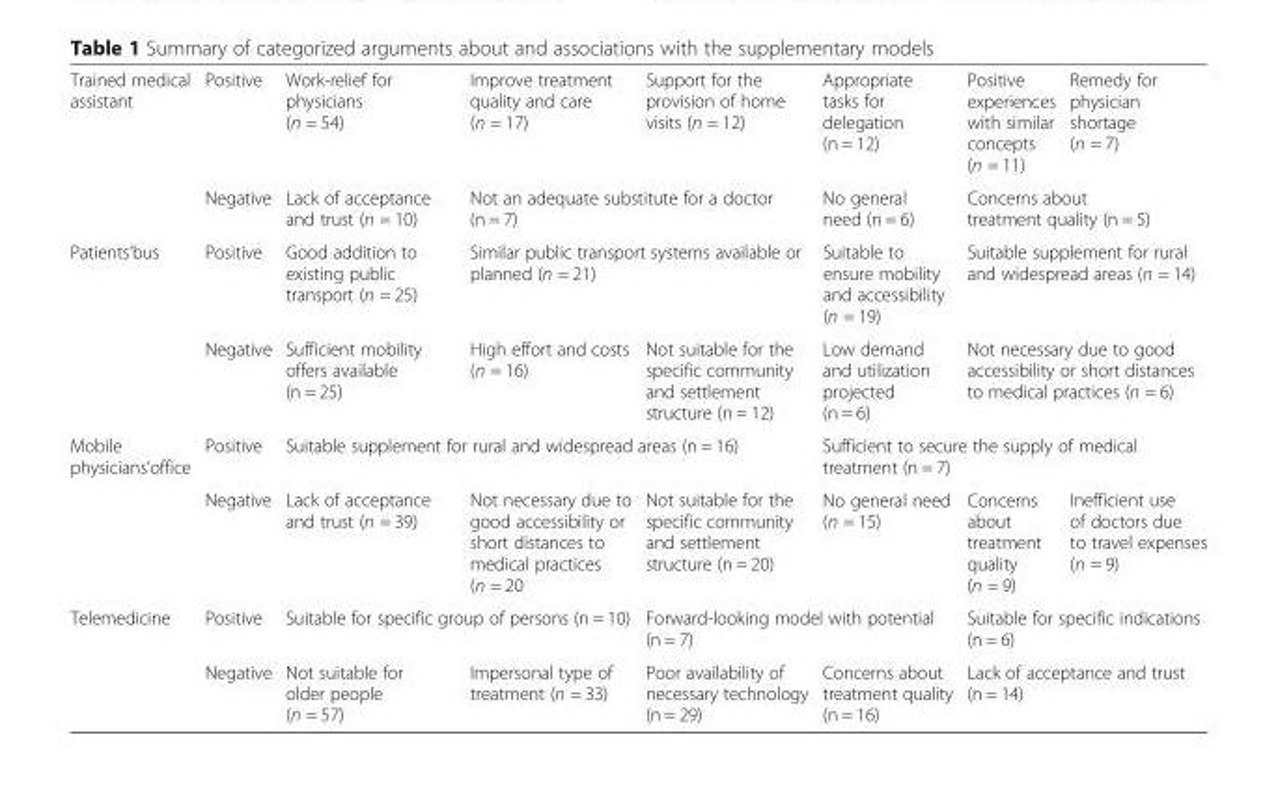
<table><tbody><tr><td rowspan="2">Trained medical assistant</td><td>Positive</td><td>Work-relief for physicians (n = 54)</td><td>Improve treatment quality and care (n = 17)</td><td>Support for the provision of home visits (n = 12)</td><td>Appropriate tasks for delegation (n = 12)</td><td>Positive experiences with similar concepts (n = 11)</td><td>Remedy for physician shortage (n = 7)</td></tr><tr><td>Negative</td><td>Lack of acceptance and trust (n = 10)</td><td colspan="2">Not an adequate substitute for a doctor (n = 7)</td><td>No general need (n = 6)</td><td colspan="2">Concerns about treatment quality (n = 5)</td></tr><tr><td rowspan="2">Patients‘bus</td><td>Positive</td><td>Good addition to existing public transport (n = 25)</td><td colspan="2">Similar public transport systems available or planned (n = 21)</td><td>Suitable to ensure mobility and accessibility (n = 19)</td><td colspan="2">Suitable supplement for rural and widespread areas (n = 14)</td></tr><tr><td>Negative</td><td>Sufficient mobility offers available (n = 25)</td><td>High effort and costs (n = 16)</td><td>Not suitable for the specific community and settlement structure (n = 12)</td><td>Low demand and utilization projected (n = 6)</td><td colspan="2">Not necessary due to good accessibility or short distances to medical practices (n = 6)</td></tr><tr><td rowspan="2">Mobile physicians‘office</td><td>Positive</td><td colspan="3">Suitable supplement for rural and widespread areas (n = 16)</td><td colspan="3">Sufficient to secure the supply of medical treatment (n = 7)</td></tr><tr><td>Negative</td><td>Lack of acceptance and trust (n = 39)</td><td>Not necessary due to good accessibility or short distances to medical practices (n = 20</td><td>Not suitable for the specific community and settlement structure (n = 20)</td><td>No general need (n = 15)</td><td>Concerns about treatment quality (n = 9)</td><td>Inefficient use of doctors due to travel expenses (n = 9)</td></tr><tr><td rowspan="2">Telemedicine</td><td>Positive</td><td colspan="2">Suitable for specific group of persons (n = 10)</td><td colspan="2">Forward-looking model with potential (n = 7)</td><td colspan="2">Suitable for specific indications (n = 6)</td></tr><tr><td>Negative</td><td>Not suitable for older people (n = 57)</td><td>Impersonal type of treatment (n = 33)</td><td>Poor availability of necessary technology (n = 29)</td><td>Concerns about treatment quality (n = 16)</td><td colspan="2">Lack of acceptance and trust (n = 14)</td></tr></tbody></table>